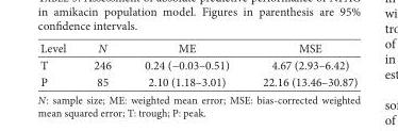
<table><thead><tr><td>Level</td><td>N</td><td>ME</td><td>MSE</td></tr></thead><tbody><tr><td>T</td><td>246</td><td>0.24 (−0.03–0.51)</td><td>4.67 (2.93–6.42)</td></tr><tr><td>P</td><td>85</td><td>2.10 (1.18–3.01)</td><td>22.16 (13.46–30.87)</td></tr></tbody></table>